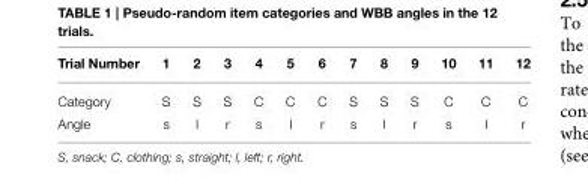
<table><thead><tr><td>Trial Number</td><td>1</td><td>2</td><td>3</td><td>4</td><td>5</td><td>6</td><td>7</td><td>8</td><td>9</td><td>10</td><td>11</td><td>12</td></tr></thead><tbody><tr><td>Category</td><td>S</td><td>S</td><td>S</td><td>C</td><td>C</td><td>C</td><td>S</td><td>S</td><td>S</td><td>C</td><td>C</td><td>C</td></tr><tr><td>Angle</td><td>s</td><td>l</td><td>r</td><td>s</td><td>l</td><td>r</td><td>s</td><td>l</td><td>r</td><td>s</td><td>l</td><td>r</td></tr></tbody></table>